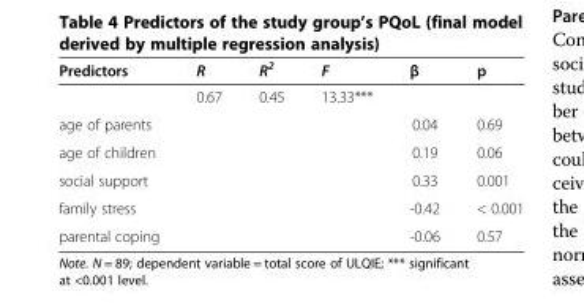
<table><thead><tr><td>Predictors</td><td>R</td><td>R<sup>2</sup></td><td>F</td><td>β</td><td>p</td></tr></thead><tbody><tr><td></td><td>0.67</td><td>0.45</td><td>13.33***</td><td></td><td></td></tr><tr><td>age of parents</td><td rowspan="5"></td><td rowspan="5"></td><td rowspan="5"></td><td>0.04</td><td>0.69</td></tr><tr><td>age of children</td><td>0.19</td><td>0.06</td></tr><tr><td>social support</td><td>0.33</td><td>0.001</td></tr><tr><td>family stress</td><td>-0.42</td><td>&lt; 0.001</td></tr><tr><td>parental coping</td><td>-0.06</td><td>0.57</td></tr></tbody></table>